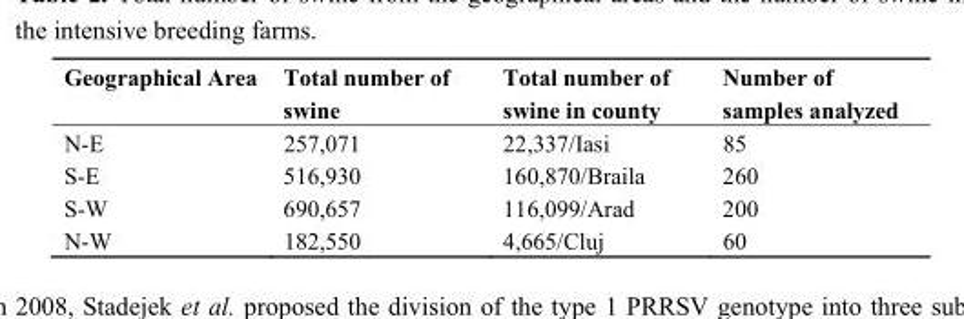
<table><thead><tr><td>Geographical Area</td><td>Total number of swine</td><td>Total number of swine in county</td><td>Number of samples analyzed</td></tr></thead><tbody><tr><td>N-E</td><td>257,071</td><td>22,337/Iasi</td><td>85</td></tr><tr><td>S-E</td><td>516,930</td><td>160,870/Braila</td><td>260</td></tr><tr><td>S-W</td><td>690,657</td><td>116,099/Arad</td><td>200</td></tr><tr><td>N-W</td><td>182,550</td><td>4,665/Cluj</td><td>60</td></tr></tbody></table>